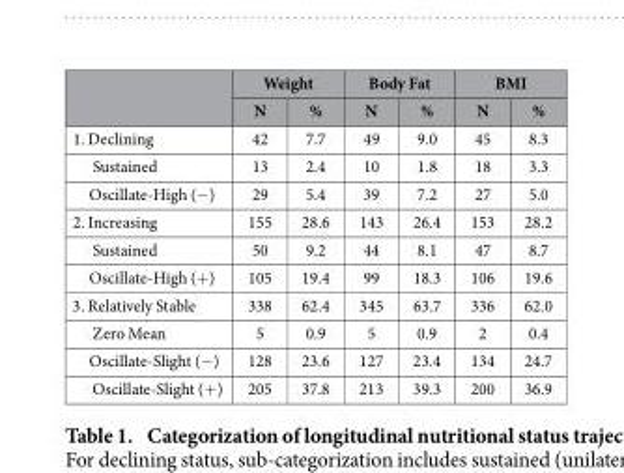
<table><thead><tr><td rowspan="2"></td><td colspan="2">Weight</td><td colspan="2">Body Fat</td><td colspan="2">BMI</td></tr><tr><td>N</td><td>%</td><td>N</td><td>%</td><td>N</td><td>%</td></tr></thead><tbody><tr><td>1. Declining</td><td>42</td><td>7.7</td><td>49</td><td>9.0</td><td>45</td><td>8.3</td></tr><tr><td>Sustained</td><td>13</td><td>2.4</td><td>10</td><td>1.8</td><td>18</td><td>3.3</td></tr><tr><td>Oscillate-High (− )</td><td>29</td><td>5.4</td><td>39</td><td>7.2</td><td>27</td><td>5.0</td></tr><tr><td>2. Increasing</td><td>155</td><td>28.6</td><td>143</td><td>26.4</td><td>153</td><td>28.2</td></tr><tr><td>Sustained</td><td>50</td><td>9.2</td><td>44</td><td>8.1</td><td>47</td><td>8.7</td></tr><tr><td>Oscillate-High (+ )</td><td>105</td><td>19.4</td><td>99</td><td>18.3</td><td>106</td><td>19.6</td></tr><tr><td>3. Relatively Stable</td><td>338</td><td>62.4</td><td>345</td><td>63.7</td><td>336</td><td>62.0</td></tr><tr><td>Zero Mean</td><td>5</td><td>0.9</td><td>5</td><td>0.9</td><td>2</td><td>0.4</td></tr><tr><td>Oscillate-Slight (− )</td><td>128</td><td>23.6</td><td>127</td><td>23.4</td><td>134</td><td>24.7</td></tr><tr><td>Oscillate-Slight (+ )</td><td>205</td><td>37.8</td><td>213</td><td>39.3</td><td>200</td><td>36.9</td></tr></tbody></table>